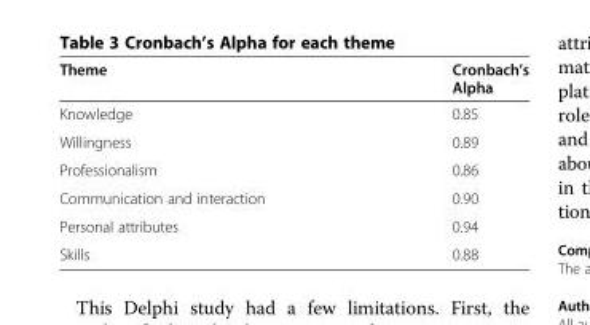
<table><thead><tr><td>Theme</td><td>Cronbach’s Alpha</td></tr></thead><tbody><tr><td>Knowledge</td><td>0.85</td></tr><tr><td>Willingness</td><td>0.89</td></tr><tr><td>Professionalism</td><td>0.86</td></tr><tr><td>Communication and interaction</td><td>0.90</td></tr><tr><td>Personal attributes</td><td>0.94</td></tr><tr><td>Skills</td><td>0.88</td></tr></tbody></table>